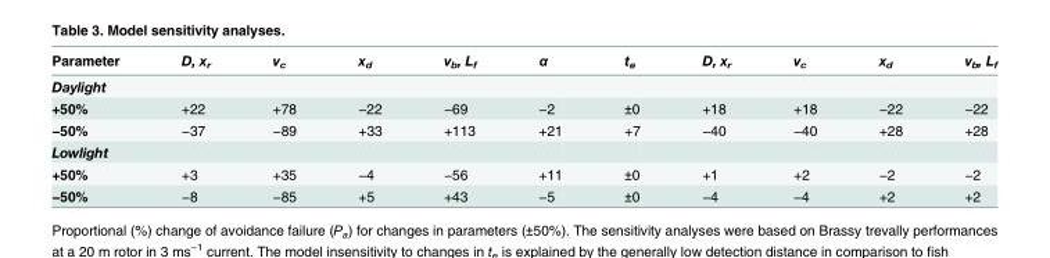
<table><thead><tr><td>Parameter</td><td>D, x<sub>r</sub></td><td>v<sub>c</sub></td><td>x<sub>d</sub></td><td>v<sub>b</sub>, L<sub>f</sub></td><td>α</td><td>t<sub>e</sub></td><td>D, x<sub>r</sub></td><td>v<sub>c</sub></td><td>x<sub>d</sub></td><td>v<sub>b</sub>, L<sub>f</sub></td></tr></thead><tbody><tr><td colspan="11">Daylight</td></tr><tr><td>+50%</td><td>+22</td><td>+78</td><td>−22</td><td>−69</td><td>−2</td><td>±0</td><td>+18</td><td>+18</td><td>−22</td><td>−22</td></tr><tr><td>−50%</td><td>−37</td><td>−89</td><td>+33</td><td>+113</td><td>+21</td><td>+7</td><td>−40</td><td>−40</td><td>+28</td><td>+28</td></tr><tr><td colspan="11">Lowlight</td></tr><tr><td>+50%</td><td>+3</td><td>+35</td><td>−4</td><td>−56</td><td>+11</td><td>±0</td><td>+1</td><td>+2</td><td>−2</td><td>−2</td></tr><tr><td>−50%</td><td>−8</td><td>−85</td><td>+5</td><td>+43</td><td>−5</td><td>±0</td><td>−4</td><td>−4</td><td>+2</td><td>+2</td></tr></tbody></table>